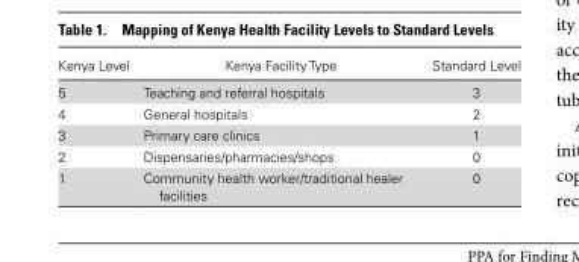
<table><thead><tr><td>Kenya Level</td><td>Kenya Facility Type</td><td>Standard Level</td></tr></thead><tbody><tr><td>5</td><td>Teaching and referral hospitals</td><td>3</td></tr><tr><td>4</td><td>General hospitals</td><td>2</td></tr><tr><td>3</td><td>Primary care clinics</td><td>1</td></tr><tr><td>2</td><td>Dispensaries/pharmacies/shops</td><td>0</td></tr><tr><td>1</td><td>Community health worker/traditional healer facilities</td><td>0</td></tr></tbody></table>